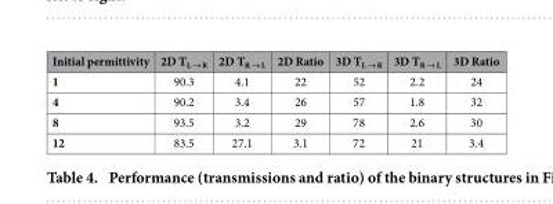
<table><thead><tr><td>Initial permittivity</td><td>2D T<sub>L → R</sub></td><td>2D T<sub>R → L</sub></td><td>2D Ratio</td><td>3D T<sub>L → R</sub></td><td>3D T<sub>R → L</sub></td><td>3D Ratio</td></tr></thead><tbody><tr><td>1</td><td>90.3</td><td>4.1</td><td>22</td><td>52</td><td>2.2</td><td>24</td></tr><tr><td>4</td><td>90.2</td><td>3.4</td><td>26</td><td>57</td><td>1.8</td><td>32</td></tr><tr><td>8</td><td>93.5</td><td>3.2</td><td>29</td><td>78</td><td>2.6</td><td>30</td></tr><tr><td>12</td><td>83.5</td><td>27.1</td><td>3.1</td><td>72</td><td>21</td><td>3.4</td></tr></tbody></table>